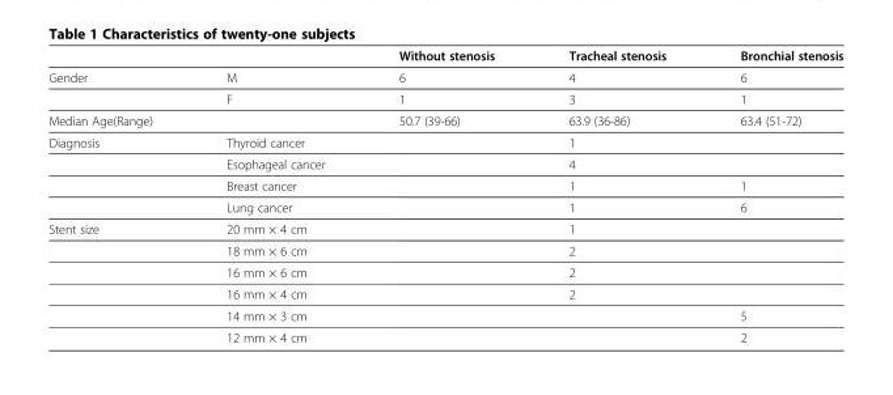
<table><thead><tr><td></td><td></td><td>Without stenosis</td><td>Tracheal stenosis</td><td>Bronchial stenosis</td></tr></thead><tbody><tr><td rowspan="2">Gender</td><td>M</td><td>6</td><td>4</td><td>6</td></tr><tr><td>F</td><td>1</td><td>3</td><td>1</td></tr><tr><td>Median Age(Range)</td><td></td><td>50.7 (39-66)</td><td>63.9 (36-86)</td><td>63.4 (51-72)</td></tr><tr><td rowspan="4">Diagnosis</td><td>Thyroid cancer</td><td></td><td>1</td><td></td></tr><tr><td>Esophageal cancer</td><td></td><td>4</td><td></td></tr><tr><td>Breast cancer</td><td></td><td>1</td><td>1</td></tr><tr><td>Lung cancer</td><td></td><td>1</td><td>6</td></tr><tr><td rowspan="6">Stent size</td><td>20 mm × 4 cm</td><td></td><td>1</td><td></td></tr><tr><td>18 mm × 6 cm</td><td></td><td>2</td><td></td></tr><tr><td>16 mm × 6 cm</td><td></td><td>2</td><td></td></tr><tr><td>16 mm × 4 cm</td><td></td><td>2</td><td></td></tr><tr><td>14 mm × 3 cm</td><td></td><td></td><td>5</td></tr><tr><td>12 mm × 4 cm</td><td></td><td></td><td>2</td></tr></tbody></table>